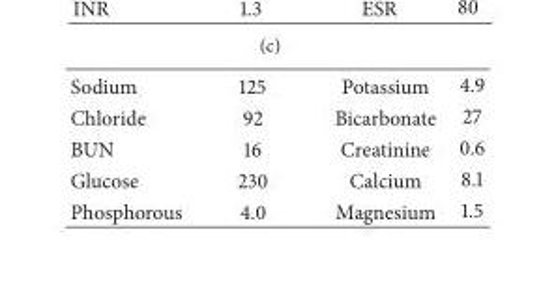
<table><tbody><tr><td>Sodium</td><td>125</td><td>Potassium</td><td>4.9</td></tr><tr><td>Chloride</td><td>92</td><td>Bicarbonate</td><td>27</td></tr><tr><td>BUN</td><td>16</td><td>Creatinine</td><td>0.6</td></tr><tr><td>Glucose</td><td>230</td><td>Calcium</td><td>8.1</td></tr><tr><td>Phosphorous</td><td>4.0</td><td>Magnesium</td><td>1.5</td></tr></tbody></table>